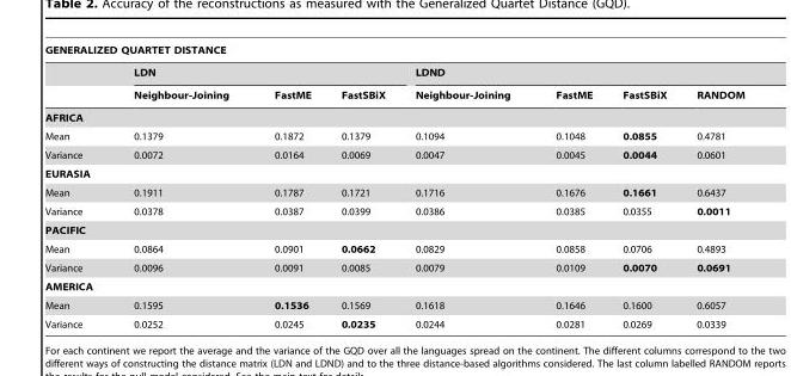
<table><thead><tr><td colspan="8">GENERALIZED QUARTET DISTANCE</td></tr><tr><td rowspan="2"></td><td colspan="3">LDN</td><td colspan="4">LDND</td></tr><tr><td>Neighbour-Joining</td><td>FastME</td><td>FastSBiX</td><td>Neighbour-Joining</td><td>FastME</td><td>FastSBiX</td><td>RANDOM</td></tr></thead><tbody><tr><td colspan="8">AFRICA</td></tr><tr><td>Mean</td><td>0.1379</td><td>0.1872</td><td>0.1379</td><td>0.1094</td><td>0.1048</td><td>0.0855</td><td>0.4781</td></tr><tr><td>Variance</td><td>0.0072</td><td>0.0164</td><td>0.0069</td><td>0.0047</td><td>0.0045</td><td>0.0044</td><td>0.0601</td></tr><tr><td colspan="8">EURASIA</td></tr><tr><td>Mean</td><td>0.1911</td><td>0.1787</td><td>0.1721</td><td>0.1716</td><td>0.1676</td><td>0.1661</td><td>0.6437</td></tr><tr><td>Variance</td><td>0.0378</td><td>0.0387</td><td>0.0399</td><td>0.0386</td><td>0.0385</td><td>0.0355</td><td>0.0011</td></tr><tr><td colspan="8">PACIFIC</td></tr><tr><td>Mean</td><td>0.0864</td><td>0.0901</td><td>0.0662</td><td>0.0829</td><td>0.0858</td><td>0.0706</td><td>0.4893</td></tr><tr><td>Variance</td><td>0.0096</td><td>0.0091</td><td>0.0085</td><td>0.0079</td><td>0.0109</td><td>0.0070</td><td>0.0691</td></tr><tr><td colspan="8">AMERICA</td></tr><tr><td>Mean</td><td>0.1595</td><td>0.1536</td><td>0.1569</td><td>0.1618</td><td>0.1646</td><td>0.1600</td><td>0.6057</td></tr><tr><td>Variance</td><td>0.0252</td><td>0.0245</td><td>0.0235</td><td>0.0244</td><td>0.0281</td><td>0.0269</td><td>0.0339</td></tr></tbody></table>